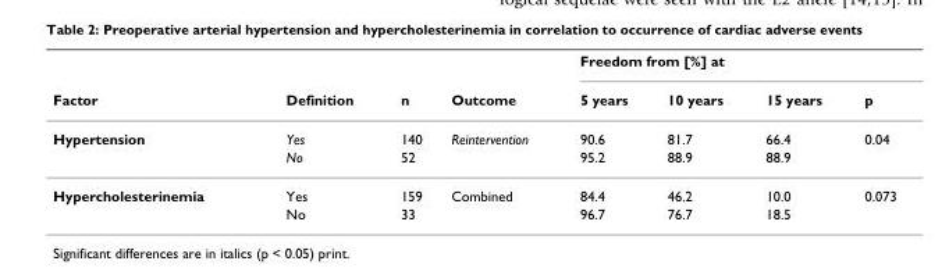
<table><thead><tr><td rowspan="2">Factor</td><td rowspan="2">Definition</td><td rowspan="2">n</td><td rowspan="2">Outcome</td><td colspan="4">Freedom from [%] at</td></tr><tr><td>5 years</td><td>10 years</td><td>15 years</td><td>p</td></tr></thead><tbody><tr><td rowspan="2">Hypertension</td><td>Yes</td><td>140</td><td>Reintervention</td><td>90.6</td><td>81.7</td><td>66.4</td><td>0.04</td></tr><tr><td>No</td><td>52</td><td></td><td>95.2</td><td>88.9</td><td>88.9</td><td></td></tr><tr><td rowspan="2">Hypercholesterinemia</td><td>Yes</td><td>159</td><td>Combined</td><td>84.4</td><td>46.2</td><td>10.0</td><td>0.073</td></tr><tr><td>No</td><td>33</td><td></td><td>96.7</td><td>76.7</td><td>18.5</td><td></td></tr></tbody></table>